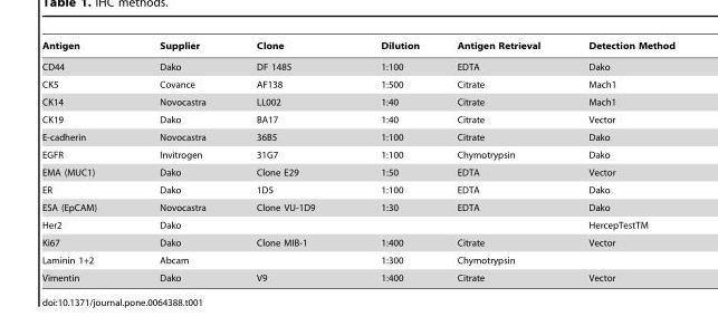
<table><thead><tr><td>Antigen</td><td>Supplier</td><td>Clone</td><td>Dilution</td><td>Antigen Retrieval</td><td>Detection Method</td></tr></thead><tbody><tr><td>CD44</td><td>Dako</td><td>DF 1485</td><td>1:100</td><td>EDTA</td><td>Dako</td></tr><tr><td>CK5</td><td>Covance</td><td>AF138</td><td>1:500</td><td>Citrate</td><td>Mach1</td></tr><tr><td>CK14</td><td>Novocastra</td><td>LL002</td><td>1:40</td><td>Citrate</td><td>Mach1</td></tr><tr><td>CK19</td><td>Dako</td><td>BA17</td><td>1:40</td><td>Citrate</td><td>Vector</td></tr><tr><td>E-cadherin</td><td>Novocastra</td><td>36B5</td><td>1:100</td><td>Citrate</td><td>Dako</td></tr><tr><td>EGFR</td><td>Invitrogen</td><td>31G7</td><td>1:100</td><td>Chymotrypsin</td><td>Dako</td></tr><tr><td>EMA (MUC1)</td><td>Dako</td><td>Clone E29</td><td>1:50</td><td>EDTA</td><td>Vector</td></tr><tr><td>ER</td><td>Dako</td><td>1D5</td><td>1:100</td><td>EDTA</td><td>Dako</td></tr><tr><td>ESA (EpCAM)</td><td>Novocastra</td><td>Clone VU-1D9</td><td>1:30</td><td>EDTA</td><td>Dako</td></tr><tr><td>Her2</td><td>Dako</td><td></td><td></td><td></td><td>HercepTestTM</td></tr><tr><td>Ki67</td><td>Dako</td><td>Clone MIB-1</td><td>1:400</td><td>Citrate</td><td>Vector</td></tr><tr><td>Laminin 1+2</td><td>Abcam</td><td></td><td>1:300</td><td>Chymotrypsin</td><td></td></tr><tr><td>Vimentin</td><td>Dako</td><td>V9</td><td>1:400</td><td>Citrate</td><td>Vector</td></tr></tbody></table>